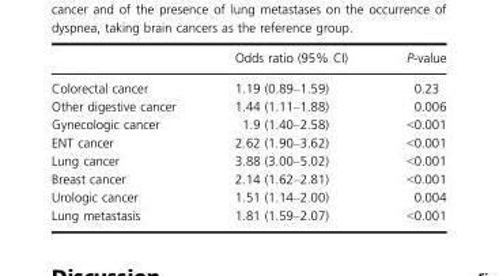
<table><thead><tr><td></td><td>Odds ratio (95% CI)</td><td>P-value</td></tr></thead><tbody><tr><td>Colorectal cancer</td><td>1.19 (0.89–1.59)</td><td>0.23</td></tr><tr><td>Other digestive cancer</td><td>1.44 (1.11–1.88)</td><td>0.006</td></tr><tr><td>Gynecologic cancer</td><td>1.9 (1.40–2.58)</td><td>&lt;0.001</td></tr><tr><td>ENT cancer</td><td>2.62 (1.90–3.62)</td><td>&lt;0.001</td></tr><tr><td>Lung cancer</td><td>3.88 (3.00–5.02)</td><td>&lt;0.001</td></tr><tr><td>Breast cancer</td><td>2.14 (1.62–2.81)</td><td>&lt;0.001</td></tr><tr><td>Urologic cancer</td><td>1.51 (1.14–2.00)</td><td>0.004</td></tr><tr><td>Lung metastasis</td><td>1.81 (1.59–2.07)</td><td>&lt;0.001</td></tr></tbody></table>